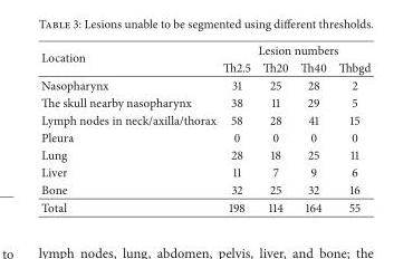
<table><thead><tr><td rowspan="2">Location</td><td colspan="4">Lesion numbers</td></tr><tr><td>Th2.5</td><td>Th20</td><td>Th40</td><td>Thbgd</td></tr></thead><tbody><tr><td>Nasopharynx</td><td>31</td><td>25</td><td>28</td><td>2</td></tr><tr><td>The skull nearby nasopharynx</td><td>38</td><td>11</td><td>29</td><td>5</td></tr><tr><td>Lymph nodes in neck/axilla/thorax</td><td>58</td><td>28</td><td>41</td><td>15</td></tr><tr><td>Pleura</td><td>0</td><td>0</td><td>0</td><td>0</td></tr><tr><td>Lung</td><td>28</td><td>18</td><td>25</td><td>11</td></tr><tr><td>Liver</td><td>11</td><td>7</td><td>9</td><td>6</td></tr><tr><td>Bone</td><td>32</td><td>25</td><td>32</td><td>16</td></tr><tr><td>Total</td><td>198</td><td>114</td><td>164</td><td>55</td></tr></tbody></table>